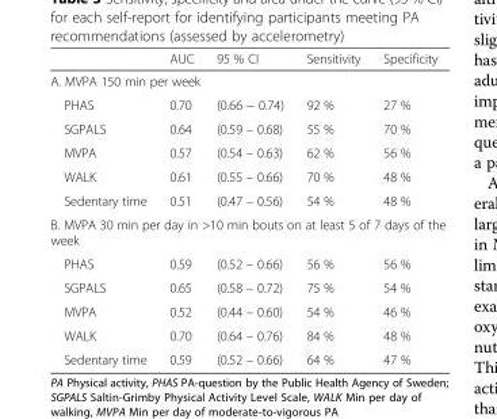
<table><thead><tr><td></td><td>AUC</td><td>95 % CI</td><td>Sensitivity</td><td>Specificity</td></tr></thead><tbody><tr><td colspan="5">A. MVPA 150 min per week</td></tr><tr><td>PHAS</td><td>0.70</td><td>(0.66 − 0.74)</td><td>92 %</td><td>27 %</td></tr><tr><td>SGPALS</td><td>0.64</td><td>(0.59 – 0.68)</td><td>55 %</td><td>70 %</td></tr><tr><td>MVPA</td><td>0.57</td><td>(0.54 – 0.63)</td><td>62 %</td><td>56 %</td></tr><tr><td>WALK</td><td>0.61</td><td>(0.55 – 0.66)</td><td>70 %</td><td>48 %</td></tr><tr><td>Sedentary time</td><td>0.51</td><td>(0.47 – 0.56)</td><td>54 %</td><td>48 %</td></tr><tr><td colspan="5">B. MVPA 30 min per day in &gt;10 min bouts on at least 5 of 7 days of the week</td></tr><tr><td>PHAS</td><td>0.59</td><td>(0.52 – 0.66)</td><td>56 %</td><td>56 %</td></tr><tr><td>SGPALS</td><td>0.65</td><td>(0.58 – 0.72)</td><td>75 %</td><td>54 %</td></tr><tr><td>MVPA</td><td>0.52</td><td>(0.44 – 0.60)</td><td>54 %</td><td>46 %</td></tr><tr><td>WALK</td><td>0.70</td><td>(0.64 – 0.76)</td><td>84 %</td><td>48 %</td></tr><tr><td>Sedentary time</td><td>0.59</td><td>(0.52 – 0.66)</td><td>64 %</td><td>47 %</td></tr></tbody></table>